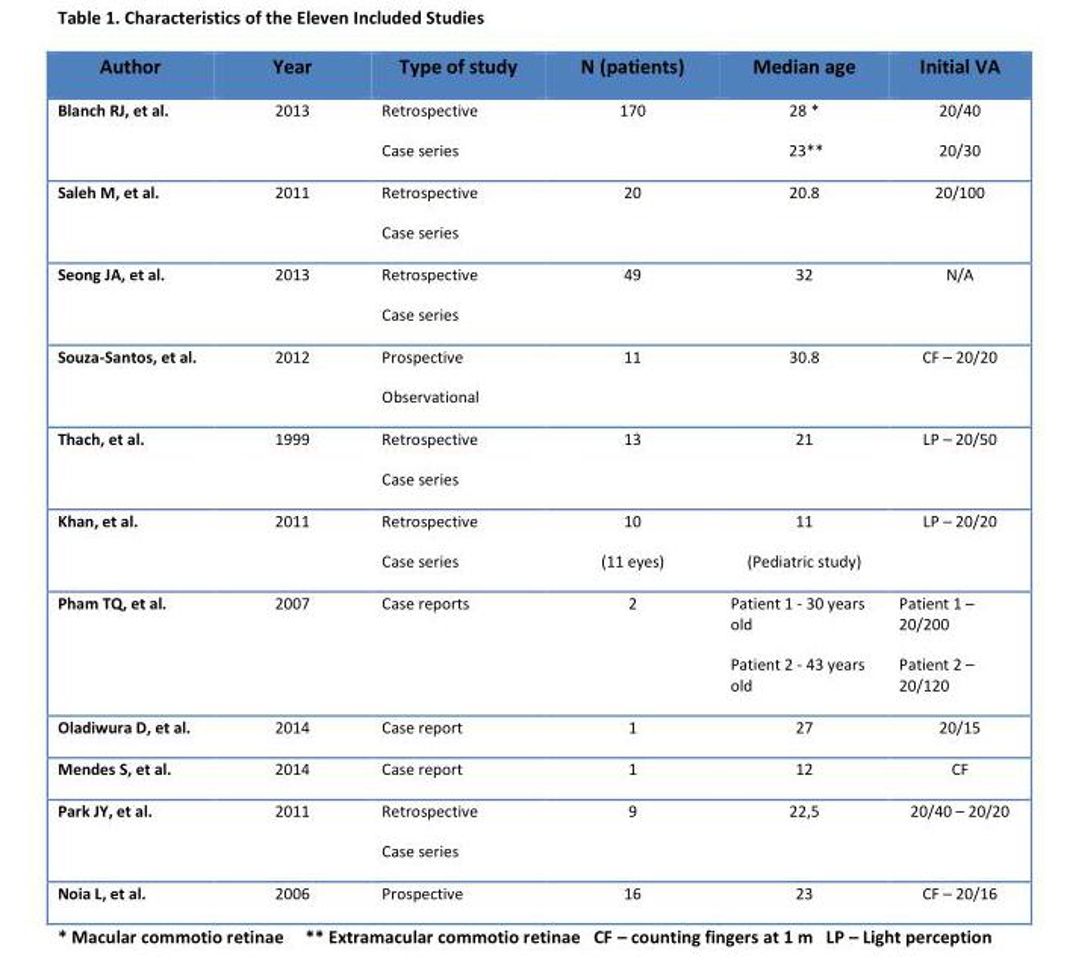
<table><thead><tr><td>Author</td><td>Year</td><td>Type of study</td><td>N (patients)</td><td>Median age</td><td>Initial VA</td></tr></thead><tbody><tr><td>Blanch RJ, et al.</td><td>2013</td><td>Retrospective Case series</td><td>170</td><td>28 * 23**</td><td>20/40 20/30</td></tr><tr><td>Saleh M, et al.</td><td>2011</td><td>Retrospective Case series</td><td>20</td><td>20.8</td><td>20/100</td></tr><tr><td>Seong JA, et al.</td><td>2013</td><td>Retrospective Case series</td><td>49</td><td>32</td><td>N/A</td></tr><tr><td>Souza-Santos, et al.</td><td>2012</td><td>Prospective Observational</td><td>11</td><td>30.8</td><td>CF – 20/20</td></tr><tr><td>Thach, et al.</td><td>1999</td><td>Retrospective Case series</td><td>13</td><td>21</td><td>LP – 20/50</td></tr><tr><td>Khan, et al.</td><td>2011</td><td>Retrospective Case series</td><td>10 (11 eyes)</td><td>11 (Pediatric study)</td><td>LP – 20/20</td></tr><tr><td>Pham TQ, et al.</td><td>2007</td><td>Case reports</td><td>2</td><td>Patient 1 - 30 years old Patient 2 - 43 years old</td><td>Patient 1 – 20/200 Patient 2 – 20/120</td></tr><tr><td>Oladiwura D, et al.</td><td>2014</td><td>Case report</td><td>1</td><td>27</td><td>20/15</td></tr><tr><td>Mendes S, et al.</td><td>2014</td><td>Case report</td><td>1</td><td>12</td><td>CF</td></tr><tr><td>Park JY, et al.</td><td>2011</td><td>Retrospective Case series</td><td>9</td><td>22,5</td><td>20/40 – 20/20</td></tr><tr><td>Noia L, et al.</td><td>2006</td><td>Prospective</td><td>16</td><td>23</td><td>CF – 20/16</td></tr></tbody></table>